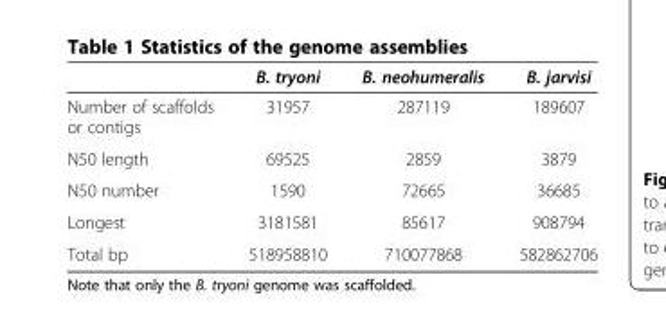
<table><thead><tr><td></td><td>B. tryoni</td><td>B. neohumeralis</td><td>B. jarvisi</td></tr></thead><tbody><tr><td>Number of scaffolds or contigs</td><td>31957</td><td>287119</td><td>189607</td></tr><tr><td>N50 length</td><td>69525</td><td>2859</td><td>3879</td></tr><tr><td>N50 number</td><td>1590</td><td>72665</td><td>36685</td></tr><tr><td>Longest</td><td>3181581</td><td>85617</td><td>908794</td></tr><tr><td>Total bp</td><td>518958810</td><td>710077868</td><td>582862706</td></tr></tbody></table>